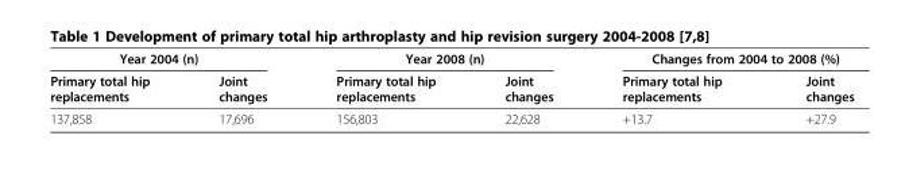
<table><thead><tr><td colspan="2">Year 2004 (n)</td><td colspan="2">Year 2008 (n)</td><td colspan="2">Changes from 2004 to 2008 (%)</td></tr><tr><td>Primary total hip replacements</td><td>Joint changes</td><td>Primary total hip replacements</td><td>Joint changes</td><td>Primary total hip replacements</td><td>Joint changes</td></tr></thead><tbody><tr><td>137,858</td><td>17,696</td><td>156,803</td><td>22,628</td><td>+13.7</td><td>+27.9</td></tr></tbody></table>